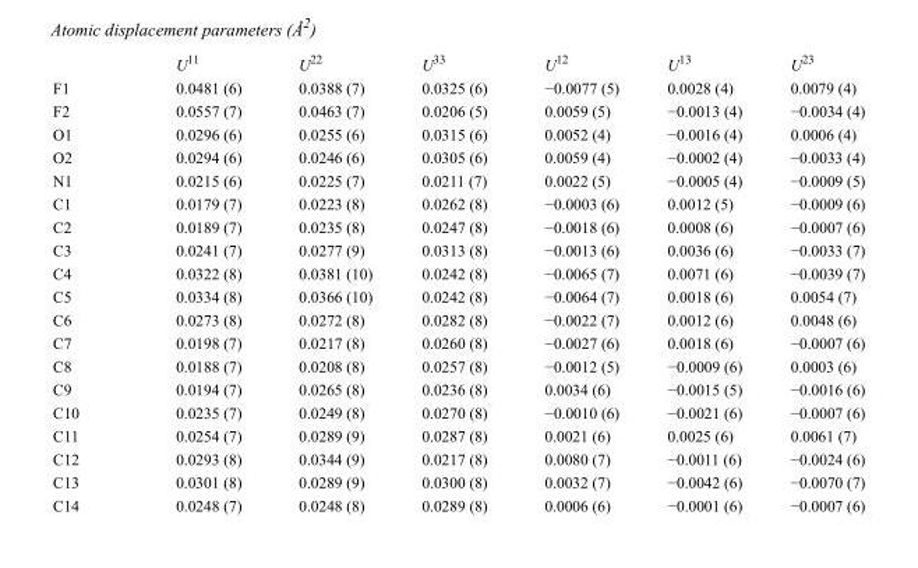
<table><thead><tr><td></td><td>U<sup>11</sup></td><td>U<sup>22</sup></td><td>U<sup>33</sup></td><td>U<sup>12</sup></td><td>U<sup>13</sup></td><td>U<sup>23</sup></td></tr></thead><tbody><tr><td>F1</td><td>0.0481 (6)</td><td>0.0388 (7)</td><td>0.0325 (6)</td><td>−0.0077 (5)</td><td>0.0028 (4)</td><td>0.0079 (4)</td></tr><tr><td>F2</td><td>0.0557 (7)</td><td>0.0463 (7)</td><td>0.0206 (5)</td><td>0.0059 (5)</td><td>−0.0013 (4)</td><td>−0.0034 (4)</td></tr><tr><td>O1</td><td>0.0296 (6)</td><td>0.0255 (6)</td><td>0.0315 (6)</td><td>0.0052 (4)</td><td>−0.0016 (4)</td><td>0.0006 (4)</td></tr><tr><td>O2</td><td>0.0294 (6)</td><td>0.0246 (6)</td><td>0.0305 (6)</td><td>0.0059 (4)</td><td>−0.0002 (4)</td><td>−0.0033 (4)</td></tr><tr><td>N1</td><td>0.0215 (6)</td><td>0.0225 (7)</td><td>0.0211 (7)</td><td>0.0022 (5)</td><td>−0.0005 (4)</td><td>−0.0009 (5)</td></tr><tr><td>C1</td><td>0.0179 (7)</td><td>0.0223 (8)</td><td>0.0262 (8)</td><td>−0.0003 (6)</td><td>0.0012 (5)</td><td>−0.0009 (6)</td></tr><tr><td>C2</td><td>0.0189 (7)</td><td>0.0235 (8)</td><td>0.0247 (8)</td><td>−0.0018 (6)</td><td>0.0008 (6)</td><td>−0.0007 (6)</td></tr><tr><td>C3</td><td>0.0241 (7)</td><td>0.0277 (9)</td><td>0.0313 (8)</td><td>−0.0013 (6)</td><td>0.0036 (6)</td><td>−0.0033 (7)</td></tr><tr><td>C4</td><td>0.0322 (8)</td><td>0.0381 (10)</td><td>0.0242 (8)</td><td>−0.0065 (7)</td><td>0.0071 (6)</td><td>−0.0039 (7)</td></tr><tr><td>C5</td><td>0.0334 (8)</td><td>0.0366 (10)</td><td>0.0242 (8)</td><td>−0.0064 (7)</td><td>0.0018 (6)</td><td>0.0054 (7)</td></tr><tr><td>C6</td><td>0.0273 (8)</td><td>0.0272 (8)</td><td>0.0282 (8)</td><td>−0.0022 (7)</td><td>0.0012 (6)</td><td>0.0048 (6)</td></tr><tr><td>C7</td><td>0.0198 (7)</td><td>0.0217 (8)</td><td>0.0260 (8)</td><td>−0.0027 (6)</td><td>0.0018 (6)</td><td>−0.0007 (6)</td></tr><tr><td>C8</td><td>0.0188 (7)</td><td>0.0208 (8)</td><td>0.0257 (8)</td><td>−0.0012 (5)</td><td>−0.0009 (6)</td><td>0.0003 (6)</td></tr><tr><td>C9</td><td>0.0194 (7)</td><td>0.0265 (8)</td><td>0.0236 (8)</td><td>0.0034 (6)</td><td>−0.0015 (5)</td><td>−0.0016 (6)</td></tr><tr><td>C10</td><td>0.0235 (7)</td><td>0.0249 (8)</td><td>0.0270 (8)</td><td>−0.0010 (6)</td><td>−0.0021 (6)</td><td>−0.0007 (6)</td></tr><tr><td>C11</td><td>0.0254 (7)</td><td>0.0289 (9)</td><td>0.0287 (8)</td><td>0.0021 (6)</td><td>0.0025 (6)</td><td>0.0061 (7)</td></tr><tr><td>C12</td><td>0.0293 (8)</td><td>0.0344 (9)</td><td>0.0217 (8)</td><td>0.0080 (7)</td><td>−0.0011 (6)</td><td>−0.0024 (6)</td></tr><tr><td>C13</td><td>0.0301 (8)</td><td>0.0289 (9)</td><td>0.0300 (8)</td><td>0.0032 (7)</td><td>−0.0042 (6)</td><td>−0.0070 (7)</td></tr><tr><td>C14</td><td>0.0248 (7)</td><td>0.0248 (8)</td><td>0.0289 (8)</td><td>0.0006 (6)</td><td>−0.0001 (6)</td><td>−0.0007 (6)</td></tr></tbody></table>